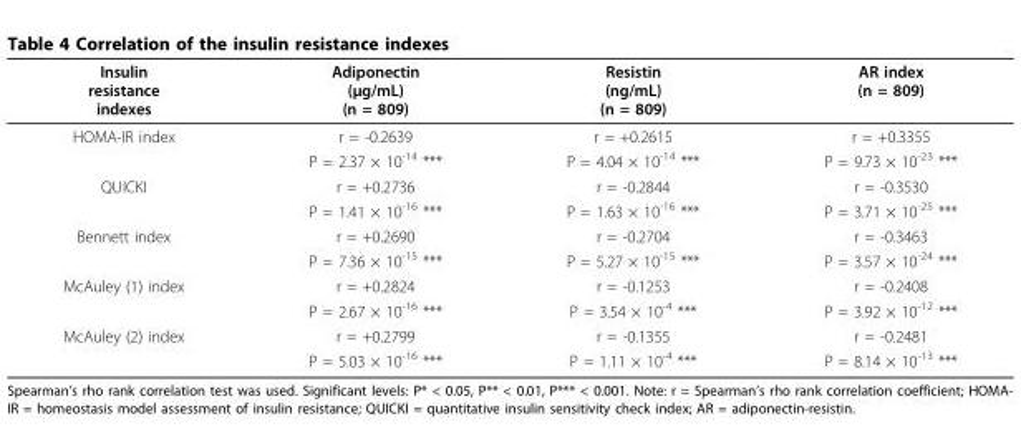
<table><thead><tr><td>Insulin resistance indexes</td><td>Adiponectin (μg/mL) (n = 809)</td><td>Resistin (ng/mL) (n = 809)</td><td>AR index (n = 809)</td></tr></thead><tbody><tr><td rowspan="2">HOMA-IR index</td><td>r = -0.2639</td><td>r = +0.2615</td><td>r = +0.3355</td></tr><tr><td>P = 2.37 × 10<sup>-14</sup> ***</td><td>P = 4.04 × 10<sup>-14</sup> ***</td><td>P = 9.73 × 10<sup>-23</sup> ***</td></tr><tr><td rowspan="2">QUICKI</td><td>r = +0.2736</td><td>r = -0.2844</td><td>r = -0.3530</td></tr><tr><td>P = 1.41 × 10<sup>-16</sup> ***</td><td>P = 1.63 × 10<sup>-16</sup> ***</td><td>P = 3.71 × 10<sup>-25</sup> ***</td></tr><tr><td rowspan="2">Bennett index</td><td>r = +0.2690</td><td>r = -0.2704</td><td>r = -0.3463</td></tr><tr><td>P = 7.36 × 10<sup>-15</sup> ***</td><td>P = 5.27 × 10<sup>-15</sup> ***</td><td>P = 3.57 × 10<sup>-24</sup> ***</td></tr><tr><td rowspan="2">McAuley (1) index</td><td>r = +0.2824</td><td>r = -0.1253</td><td>r = -0.2408</td></tr><tr><td>P = 2.67 × 10<sup>-16</sup> ***</td><td>P = 3.54 × 10<sup>-4</sup> ***</td><td>P = 3.92 × 10<sup>-12</sup> ***</td></tr><tr><td rowspan="2">McAuley (2) index</td><td>r = +0.2799</td><td>r = -0.1355</td><td>r = -0.2481</td></tr><tr><td>P = 5.03 × 10<sup>-16</sup> ***</td><td>P = 1.11 × 10<sup>-4</sup> ***</td><td>P = 8.14 × 10<sup>-13</sup> ***</td></tr></tbody></table>